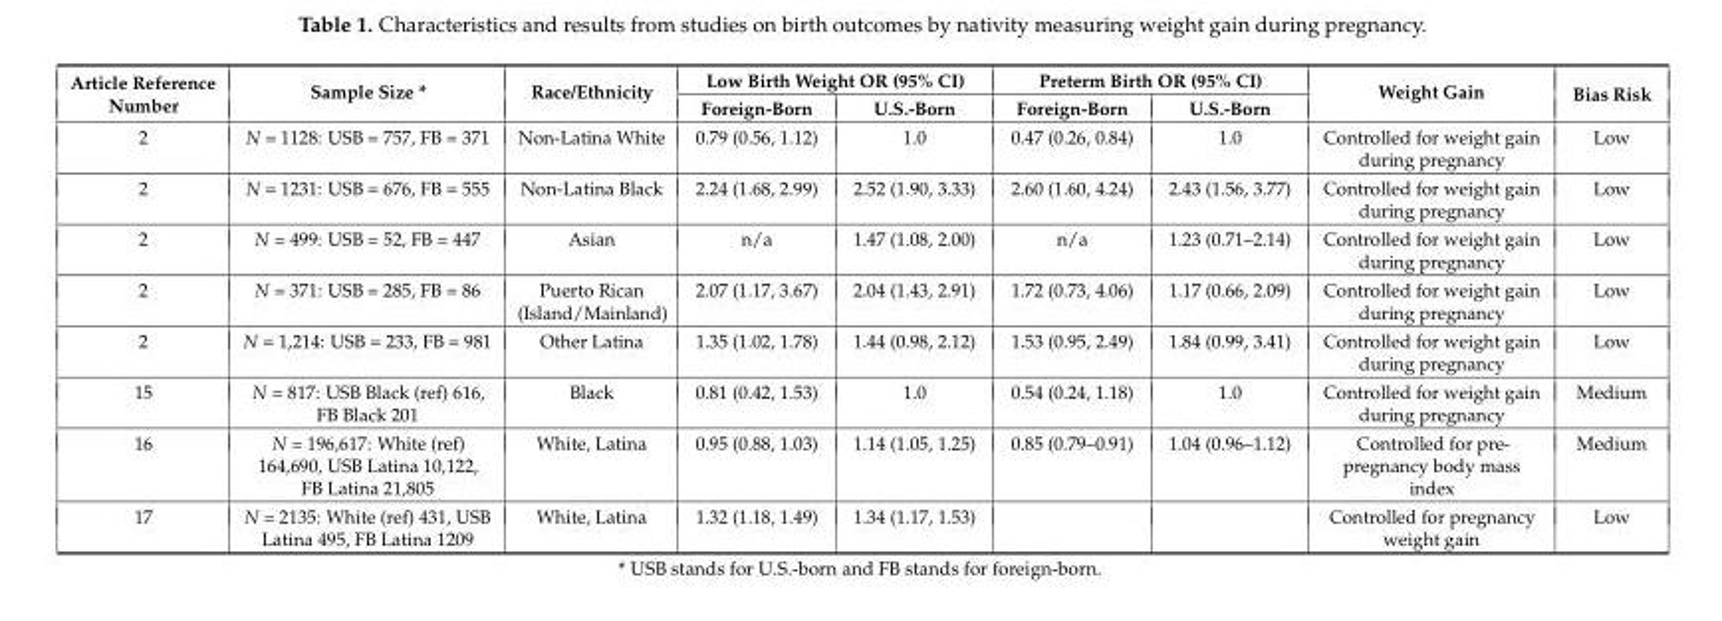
<table><thead><tr><td rowspan="2">Article Reference Number</td><td rowspan="2">Sample Size *</td><td rowspan="2">Race/Ethnicity</td><td colspan="2">Low Birth Weight OR (95% CI)</td><td colspan="2">Preterm Birth OR (95% CI)</td><td rowspan="2">Weight Gain</td><td rowspan="2">Bias Risk</td></tr><tr><td>Foreign-Born</td><td>U.S.-Born</td><td>Foreign-Born</td><td>U.S.-Born</td></tr></thead><tbody><tr><td>2</td><td>N = 1128: USB = 757, FB = 371</td><td>Non-Latina White</td><td>0.79 (0.56, 1.12)</td><td>1.0</td><td>0.47 (0.26, 0.84)</td><td>1.0</td><td>Controlled for weight gain during pregnancy</td><td>Low</td></tr><tr><td>2</td><td>N = 1231: USB = 676, FB = 555</td><td>Non-Latina Black</td><td>2.24 (1.68, 2.99)</td><td>2.52 (1.90, 3.33)</td><td>2.60 (1.60, 4.24)</td><td>2.43 (1.56, 3.77)</td><td>Controlled for weight gain during pregnancy</td><td>Low</td></tr><tr><td>2</td><td>N = 499: USB = 52, FB = 447</td><td>Asian</td><td>n/a</td><td>1.47 (1.08, 2.00)</td><td>n/a</td><td>1.23 (0.71–2.14)</td><td>Controlled for weight gain during pregnancy</td><td>Low</td></tr><tr><td>2</td><td>N = 371: USB = 285, FB = 86</td><td>Puerto Rican (Island/Mainland)</td><td>2.07 (1.17, 3.67)</td><td>2.04 (1.43, 2.91)</td><td>1.72 (0.73, 4.06)</td><td>1.17 (0.66, 2.09)</td><td>Controlled for weight gain during pregnancy</td><td>Low</td></tr><tr><td>2</td><td>N = 1,214: USB = 233, FB = 981</td><td>Other Latina</td><td>1.35 (1.02, 1.78)</td><td>1.44 (0.98, 2.12)</td><td>1.53 (0.95, 2.49)</td><td>1.84 (0.99, 3.41)</td><td>Controlled for weight gain during pregnancy</td><td>Low</td></tr><tr><td>15</td><td>N = 817: USB Black (ref) 616, FB Black 201</td><td>Black</td><td>0.81 (0.42, 1.53)</td><td>1.0</td><td>0.54 (0.24, 1.18)</td><td>1.0</td><td>Controlled for weight gain during pregnancy</td><td>Medium</td></tr><tr><td>16</td><td>N = 196,617: White (ref) 164,690, USB Latina 10,122, FB Latina 21,805</td><td>White, Latina</td><td>0.95 (0.88, 1.03)</td><td>1.14 (1.05, 1.25)</td><td>0.85 (0.79–0.91)</td><td>1.04 (0.96–1.12)</td><td>Controlled for pre- pregnancy body mass index</td><td>Medium</td></tr><tr><td>17</td><td>N = 2135: White (ref) 431, USB Latina 495, FB Latina 1209</td><td>White, Latina</td><td>1.32 (1.18, 1.49)</td><td>1.34 (1.17, 1.53)</td><td></td><td></td><td>Controlled for pregnancy weight gain</td><td>Low</td></tr></tbody></table>